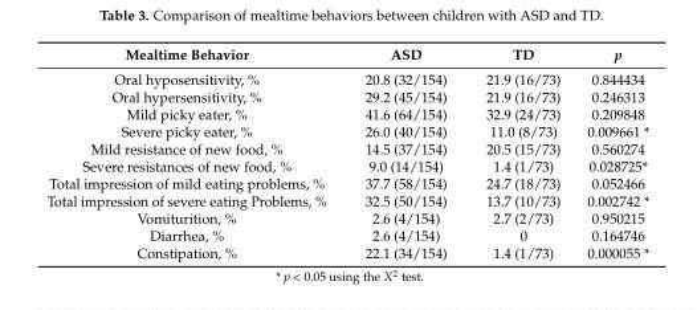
<table><thead><tr><td>Mealtime Behavior</td><td>ASD</td><td>TD</td><td>p</td></tr></thead><tbody><tr><td>Oral hyposensitivity, %</td><td>20.8 (32/154)</td><td>21.9 (16/73)</td><td>0.844434</td></tr><tr><td>Oral hypersensitivity, %</td><td>29.2 (45/154)</td><td>21.9 (16/73)</td><td>0.246313</td></tr><tr><td>Mild picky eater, %</td><td>41.6 (64/154)</td><td>32.9 (24/73)</td><td>0.209848</td></tr><tr><td>Severe picky eater, %</td><td>26.0 (40/154)</td><td>11.0 (8/73)</td><td>0.009661 *</td></tr><tr><td>Mild resistance of new food, %</td><td>14.5 (37/154)</td><td>20.5 (15/73)</td><td>0.560274</td></tr><tr><td>Severe resistances of new food, %</td><td>9.0 (14/154)</td><td>1.4 (1/73)</td><td>0.028725*</td></tr><tr><td>Total impression of mild eating problems, %</td><td>37.7 (58/154)</td><td>24.7 (18/73)</td><td>0.052466</td></tr><tr><td>Total impression of severe eating Problems, %</td><td>32.5 (50/154)</td><td>13.7 (10/73)</td><td>0.002742 *</td></tr><tr><td>Vomiturition, %</td><td>2.6 (4/154)</td><td>2.7 (2/73)</td><td>0.950215</td></tr><tr><td>Diarrhea, %</td><td>2.6 (4/154)</td><td>0</td><td>0.164746</td></tr><tr><td>Constipation, %</td><td>22.1 (34/154)</td><td>1.4 (1/73)</td><td>0.000055 *</td></tr></tbody></table>